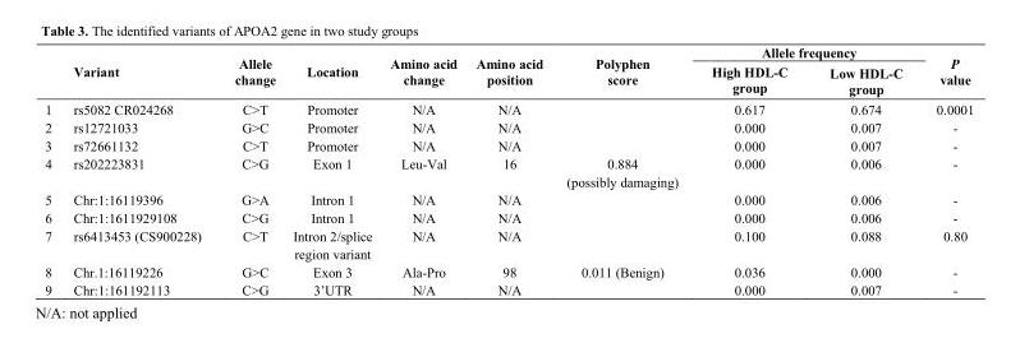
<table><thead><tr><td rowspan="2"></td><td rowspan="2">Variant</td><td rowspan="2">Allele change</td><td rowspan="2">Location</td><td rowspan="2">Amino acid change</td><td rowspan="2">Amino acid position</td><td rowspan="2">Polyphen score</td><td colspan="2">Allele frequency</td><td rowspan="2">P value</td></tr><tr><td>High HDL-C group</td><td>Low HDL-C group</td></tr></thead><tbody><tr><td>1</td><td>rs5082 CR024268</td><td>C&gt;T</td><td>Promoter</td><td>N/A</td><td>N/A</td><td></td><td>0.617</td><td>0.674</td><td>0.0001</td></tr><tr><td>2</td><td>rs12721033</td><td>G&gt;C</td><td>Promoter</td><td>N/A</td><td>N/A</td><td></td><td>0.000</td><td>0.007</td><td>-</td></tr><tr><td>3</td><td>rs72661132</td><td>C&gt;T</td><td>Promoter</td><td>N/A</td><td>N/A</td><td></td><td>0.000</td><td>0.007</td><td>-</td></tr><tr><td>4</td><td>rs202223831</td><td>C&gt;G</td><td>Exon 1</td><td>Leu-Val</td><td>16</td><td>0.884 (possibly damaging)</td><td>0.000</td><td>0.006</td><td>-</td></tr><tr><td>5</td><td>Chr:1:16119396</td><td>G&gt;A</td><td>Intron 1</td><td>N/A</td><td>N/A</td><td></td><td>0.000</td><td>0.006</td><td>-</td></tr><tr><td>6</td><td>Chr:1:1611929108</td><td>C&gt;G</td><td>Intron 1</td><td>N/A</td><td>N/A</td><td></td><td>0.000</td><td>0.006</td><td>-</td></tr><tr><td>7</td><td>rs6413453 (CS900228)</td><td>C&gt;T</td><td>Intron 2/splice region variant</td><td>N/A</td><td>N/A</td><td></td><td>0.100</td><td>0.088</td><td>0.80</td></tr><tr><td>8</td><td>Chr.1:16119226</td><td>G&gt;C</td><td>Exon 3</td><td>Ala-Pro</td><td>98</td><td>0.011 (Benign)</td><td>0.036</td><td>0.000</td><td>-</td></tr><tr><td>9</td><td>Chr:1:161192113</td><td>C&gt;G</td><td>3’UTR</td><td>N/A</td><td>N/A</td><td></td><td>0.000</td><td>0.007</td><td>-</td></tr></tbody></table>